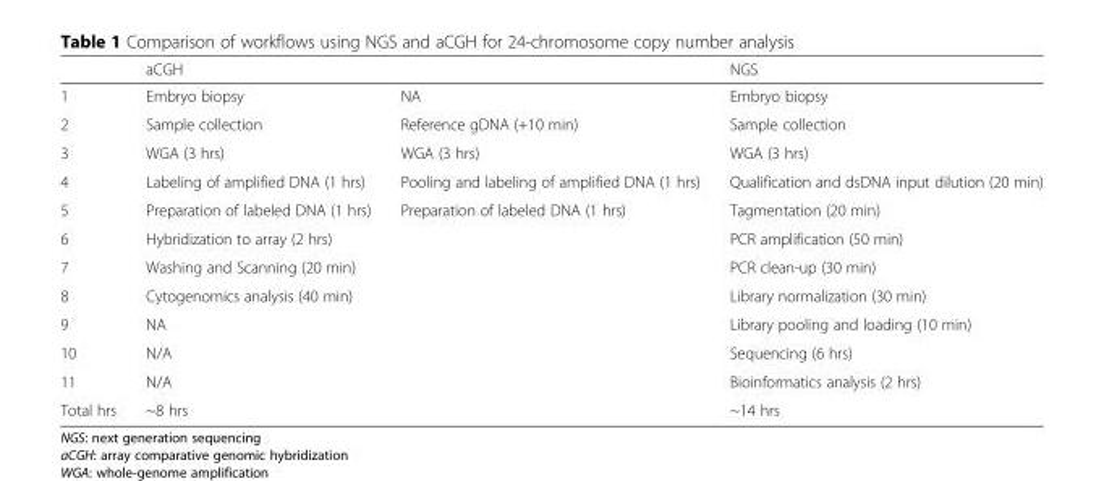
<table><thead><tr><td rowspan="2">1</td><td colspan="2">aCGH</td><td rowspan="2">NGS Embryo biopsy</td></tr><tr><td>Embryo biopsy</td><td>NA</td></tr></thead><tbody><tr><td>2</td><td>Sample collection</td><td>Reference gDNA (+10 min)</td><td>Sample collection</td></tr><tr><td>3</td><td>WGA (3 hrs)</td><td>WGA (3 hrs)</td><td>WGA (3 hrs)</td></tr><tr><td>4</td><td>Labeling of amplified DNA (1 hrs)</td><td>Pooling and labeling of amplified DNA (1 hrs)</td><td>Qualification and dsDNA input dilution (20 min)</td></tr><tr><td>5</td><td>Preparation of labeled DNA (1 hrs)</td><td>Preparation of labeled DNA (1 hrs)</td><td>Tagmentation (20 min)</td></tr><tr><td>6</td><td colspan="2">Hybridization to array (2 hrs)</td><td>PCR amplification (50 min)</td></tr><tr><td>7</td><td colspan="2">Washing and Scanning (20 min)</td><td>PCR clean-up (30 min)</td></tr><tr><td>8</td><td colspan="2">Cytogenomics analysis (40 min)</td><td>Library normalization (30 min)</td></tr><tr><td>9</td><td colspan="2">NA</td><td>Library pooling and loading (10 min)</td></tr><tr><td>10</td><td colspan="2">N/A</td><td>Sequencing (6 hrs)</td></tr><tr><td>11</td><td colspan="2">N/A</td><td>Bioinformatics analysis (2 hrs)</td></tr><tr><td>Total hrs</td><td colspan="2">~8 hrs</td><td>~14 hrs</td></tr></tbody></table>